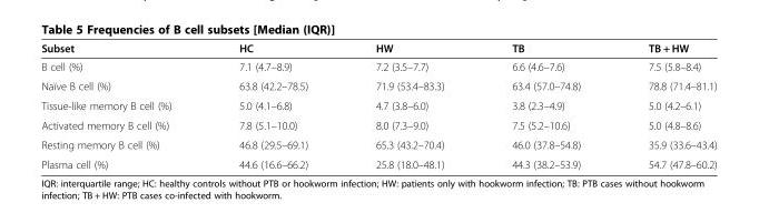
<table><thead><tr><td>Subset</td><td>HC</td><td>HW</td><td>TB</td><td>TB + HW</td></tr></thead><tbody><tr><td>B cell (%)</td><td>7.1 (4.7–8.9)</td><td>7.2 (3.5–7.7)</td><td>6.6 (4.6–7.6)</td><td>7.5 (5.8–8.4)</td></tr><tr><td>Naïve B cell (%)</td><td>63.8 (42.2–78.5)</td><td>71.9 (53.4–83.3)</td><td>63.4 (57.0–74.8)</td><td>78.8 (71.4–81.1)</td></tr><tr><td>Tissue-like memory B cell (%)</td><td>5.0 (4.1–6.8)</td><td>4.7 (3.8–6.0)</td><td>3.8 (2.3–4.9)</td><td>5.0 (4.2–6.1)</td></tr><tr><td>Activated memory B cell (%)</td><td>7.8 (5.1–10.0)</td><td>8.0 (7.3–9.0)</td><td>7.5 (5.2–10.6)</td><td>5.0 (4.8–8.6)</td></tr><tr><td>Resting memory B cell (%)</td><td>46.8 (29.5–69.1)</td><td>65.3 (43.2–70.4)</td><td>46.0 (37.8–54.8)</td><td>35.9 (33.6–43.4)</td></tr><tr><td>Plasma cell (%)</td><td>44.6 (16.6–66.2)</td><td>25.8 (18.0–48.1)</td><td>44.3 (38.2–53.9)</td><td>54.7 (47.8–60.2)</td></tr></tbody></table>